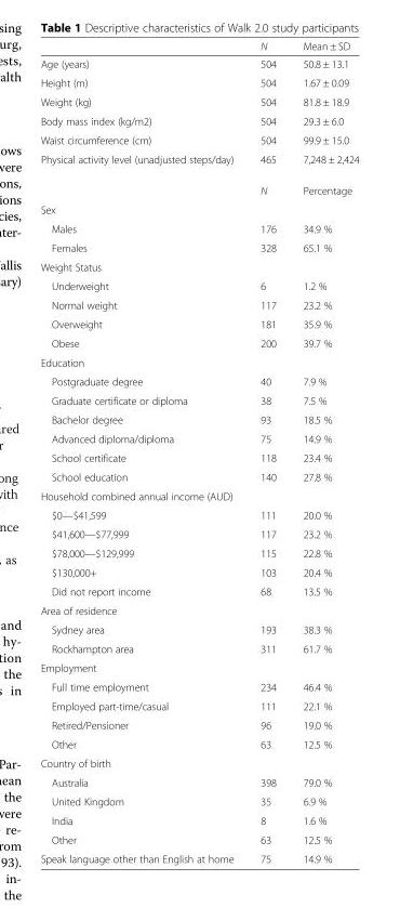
<table><thead><tr><td></td><td>N</td><td>Mean ± SD</td></tr></thead><tbody><tr><td>Age (years)</td><td>504</td><td>50.8 ± 13.1</td></tr><tr><td>Height (m)</td><td>504</td><td>1.67 ± 0.09</td></tr><tr><td>Weight (kg)</td><td>504</td><td>81.8 ± 18.9</td></tr><tr><td>Body mass index (kg/m2)</td><td>504</td><td>29.3 ± 6.0</td></tr><tr><td>Waist circumference (cm)</td><td>504</td><td>99.9 ± 15.0</td></tr><tr><td rowspan="2">Physical activity level (unadjusted steps/day)</td><td>465</td><td>7,248 ± 2,424</td></tr><tr><td>N</td><td>Percentage</td></tr><tr><td colspan="3">Sex</td></tr><tr><td>Males</td><td>176</td><td>34.9 %</td></tr><tr><td>Females</td><td>328</td><td>65.1 %</td></tr><tr><td colspan="3">Weight Status</td></tr><tr><td>Underweight</td><td>6</td><td>1.2 %</td></tr><tr><td>Normal weight</td><td>117</td><td>23.2 %</td></tr><tr><td>Overweight</td><td>181</td><td>35.9 %</td></tr><tr><td>Obese</td><td>200</td><td>39.7 %</td></tr><tr><td colspan="3">Education</td></tr><tr><td>Postgraduate degree</td><td>40</td><td>7.9 %</td></tr><tr><td>Graduate certificate or diploma</td><td>38</td><td>7.5 %</td></tr><tr><td>Bachelor degree</td><td>93</td><td>18.5 %</td></tr><tr><td>Advanced diploma/diploma</td><td>75</td><td>14.9 %</td></tr><tr><td>School certificate</td><td>118</td><td>23.4 %</td></tr><tr><td>School education</td><td>140</td><td>27.8 %</td></tr><tr><td colspan="3">Household combined annual income (AUD)</td></tr><tr><td>$0—$41,599</td><td>111</td><td>20.0 %</td></tr><tr><td>$41,600—$77,999</td><td>117</td><td>23.2 %</td></tr><tr><td>$78,000—$129,999</td><td>115</td><td>22.8 %</td></tr><tr><td>$130,000+</td><td>103</td><td>20.4 %</td></tr><tr><td>Did not report income</td><td>68</td><td>13.5 %</td></tr><tr><td colspan="3">Area of residence</td></tr><tr><td>Sydney area</td><td>193</td><td>38.3 %</td></tr><tr><td>Rockhampton area</td><td>311</td><td>61.7 %</td></tr><tr><td colspan="3">Employment</td></tr><tr><td>Full time employment</td><td>234</td><td>46.4 %</td></tr><tr><td>Employed part-time/casual</td><td>111</td><td>22.1 %</td></tr><tr><td>Retired/Pensioner</td><td>96</td><td>19.0 %</td></tr><tr><td>Other</td><td>63</td><td>12.5 %</td></tr><tr><td colspan="3">Country of birth</td></tr><tr><td>Australia</td><td>398</td><td>79.0 %</td></tr><tr><td>United Kingdom</td><td>35</td><td>6.9 %</td></tr><tr><td>India</td><td>8</td><td>1.6 %</td></tr><tr><td>Other</td><td>63</td><td>12.5 %</td></tr><tr><td>Speak language other than English at home</td><td>75</td><td>14.9 %</td></tr></tbody></table>